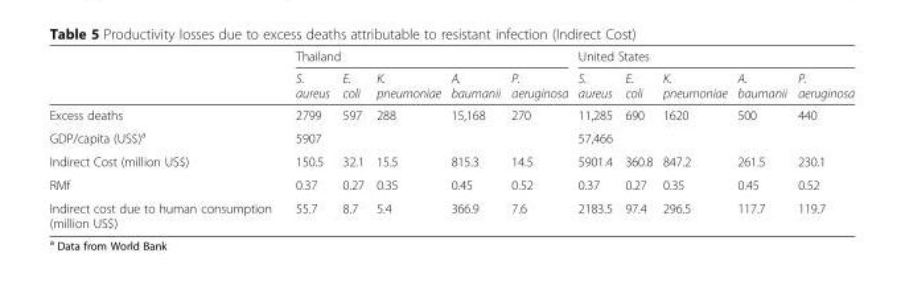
<table><thead><tr><td rowspan="2"></td><td colspan="5">Thailand</td><td colspan="5">United States</td></tr><tr><td>S. aureus</td><td>E. coli</td><td>K. pneumoniae</td><td>A. baumanii</td><td>P. aeruginosa</td><td>S. aureus</td><td>E. coli</td><td>K. pneumoniae</td><td>A. baumanii</td><td>P. aeruginosa</td></tr></thead><tbody><tr><td>Excess deaths</td><td>2799</td><td>597</td><td>288</td><td>15,168</td><td>270</td><td>11,285</td><td>690</td><td>1620</td><td>500</td><td>440</td></tr><tr><td>GDP/capita (US$)<sup>a</sup></td><td colspan="5">5907</td><td colspan="5">57,466</td></tr><tr><td>Indirect Cost (million US$)</td><td>150.5</td><td>32.1</td><td>15.5</td><td>815.3</td><td>14.5</td><td>5901.4</td><td>360.8</td><td>847.2</td><td>261.5</td><td>230.1</td></tr><tr><td>RMf</td><td>0.37</td><td>0.27</td><td>0.35</td><td>0.45</td><td>0.52</td><td>0.37</td><td>0.27</td><td>0.35</td><td>0.45</td><td>0.52</td></tr><tr><td>Indirect cost due to human consumption (million US$)</td><td>55.7</td><td>8.7</td><td>5.4</td><td>366.9</td><td>7.6</td><td>2183.5</td><td>97.4</td><td>296.5</td><td>117.7</td><td>119.7</td></tr></tbody></table>